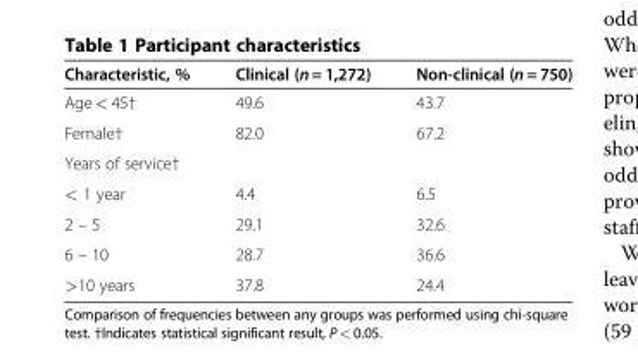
<table><thead><tr><td>Characteristic, %</td><td>Clinical (n = 1,272)</td><td>Non-clinical (n = 750)</td></tr></thead><tbody><tr><td>Age &lt; 45†</td><td>49.6</td><td>43.7</td></tr><tr><td>Female†</td><td>82.0</td><td>67.2</td></tr><tr><td colspan="3">Years of service†</td></tr><tr><td>&lt; 1 year</td><td>4.4</td><td>6.5</td></tr><tr><td>2 – 5</td><td>29.1</td><td>32.6</td></tr><tr><td>6 – 10</td><td>28.7</td><td>36.6</td></tr><tr><td>&gt;10 years</td><td>37.8</td><td>24.4</td></tr></tbody></table>